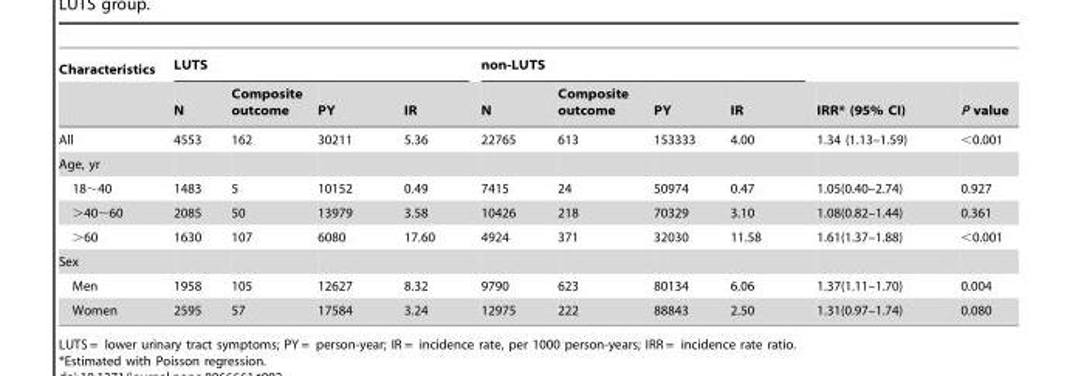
<table><thead><tr><td rowspan="2">Characteristics</td><td colspan="4">LUTS</td><td colspan="4">non-LUTS</td><td rowspan="2">IRR* (95% CI)</td><td rowspan="2">P value</td></tr><tr><td>N</td><td>Composite outcome</td><td>PY</td><td>IR</td><td>N</td><td>Composite outcome</td><td>PY</td><td>IR</td></tr></thead><tbody><tr><td>All</td><td>4553</td><td>162</td><td>30211</td><td>5.36</td><td>22765</td><td>613</td><td>153333</td><td>4.00</td><td>1.34 (1.13–1.59)</td><td>&lt;0.001</td></tr><tr><td colspan="11">Age, yr</td></tr><tr><td>18∼40</td><td>1483</td><td>5</td><td>10152</td><td>0.49</td><td>7415</td><td>24</td><td>50974</td><td>0.47</td><td>1.05(0.40–2.74)</td><td>0.927</td></tr><tr><td>&gt;40∼60</td><td>2085</td><td>50</td><td>13979</td><td>3.58</td><td>10426</td><td>218</td><td>70329</td><td>3.10</td><td>1.08(0.82–1.44)</td><td>0.361</td></tr><tr><td>&gt;60</td><td>1630</td><td>107</td><td>6080</td><td>17.60</td><td>4924</td><td>371</td><td>32030</td><td>11.58</td><td>1.61(1.37–1.88)</td><td>&lt;0.001</td></tr><tr><td colspan="11">Sex</td></tr><tr><td>Men</td><td>1958</td><td>105</td><td>12627</td><td>8.32</td><td>9790</td><td>623</td><td>80134</td><td>6.06</td><td>1.37(1.11–1.70)</td><td>0.004</td></tr><tr><td>Women</td><td>2595</td><td>57</td><td>17584</td><td>3.24</td><td>12975</td><td>222</td><td>88843</td><td>2.50</td><td>1.31(0.97–1.74)</td><td>0.080</td></tr></tbody></table>